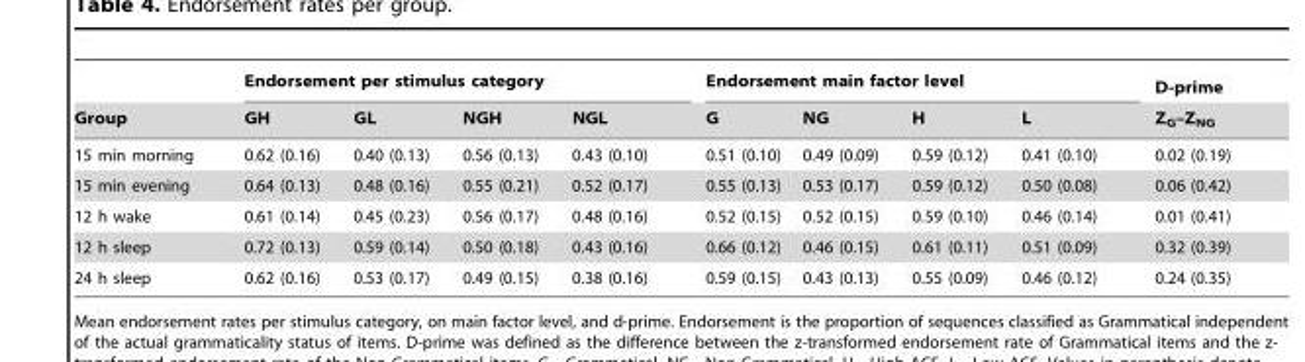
<table><thead><tr><td rowspan="2">Group</td><td colspan="4">Endorsement per stimulus category</td><td colspan="4">Endorsement main factor level</td><td rowspan="2">D-prime Z<sub>G</sub>–Z<sub>NG</sub></td></tr><tr><td>GH</td><td>GL</td><td>NGH</td><td>NGL</td><td>G</td><td>NG</td><td>H</td><td>L</td></tr></thead><tbody><tr><td>15 min morning</td><td>0.62 (0.16)</td><td>0.40 (0.13)</td><td>0.56 (0.13)</td><td>0.43 (0.10)</td><td>0.51 (0.10)</td><td>0.49 (0.09)</td><td>0.59 (0.12)</td><td>0.41 (0.10)</td><td>0.02 (0.19)</td></tr><tr><td>15 min evening</td><td>0.64 (0.13)</td><td>0.48 (0.16)</td><td>0.55 (0.21)</td><td>0.52 (0.17)</td><td>0.55 (0.13)</td><td>0.53 (0.17)</td><td>0.59 (0.12)</td><td>0.50 (0.08)</td><td>0.06 (0.42)</td></tr><tr><td>12 h wake</td><td>0.61 (0.14)</td><td>0.45 (0.23)</td><td>0.56 (0.17)</td><td>0.48 (0.16)</td><td>0.52 (0.15)</td><td>0.52 (0.15)</td><td>0.59 (0.10)</td><td>0.46 (0.14)</td><td>0.01 (0.41)</td></tr><tr><td>12 h sleep</td><td>0.72 (0.13)</td><td>0.59 (0.14)</td><td>0.50 (0.18)</td><td>0.43 (0.16)</td><td>0.66 (0.12)</td><td>0.46 (0.15)</td><td>0.61 (0.11)</td><td>0.51 (0.09)</td><td>0.32 (0.39)</td></tr><tr><td>24 h sleep</td><td>0.62 (0.16)</td><td>0.53 (0.17)</td><td>0.49 (0.15)</td><td>0.38 (0.16)</td><td>0.59 (0.15)</td><td>0.43 (0.13)</td><td>0.55 (0.09)</td><td>0.46 (0.12)</td><td>0.24 (0.35)</td></tr></tbody></table>